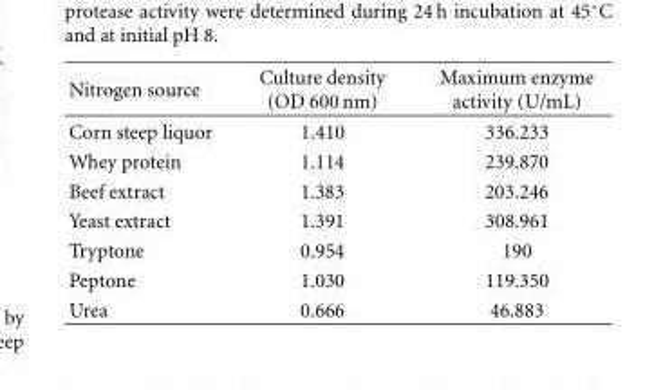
<table><thead><tr><td>Nitrogen source</td><td>Culture density (OD 600 nm)</td><td>Maximum enzyme activity (U/mL)</td></tr></thead><tbody><tr><td>Corn steep liquor</td><td>1.410</td><td>336.233</td></tr><tr><td>Whey protein</td><td>1.114</td><td>239.870</td></tr><tr><td>Beef extract</td><td>1.383</td><td>203.246</td></tr><tr><td>Yeast extract</td><td>1.391</td><td>308.961</td></tr><tr><td>Tryptone</td><td>0.954</td><td>190</td></tr><tr><td>Peptone</td><td>1.030</td><td>119.350</td></tr><tr><td>Urea</td><td>0.666</td><td>46.883</td></tr></tbody></table>